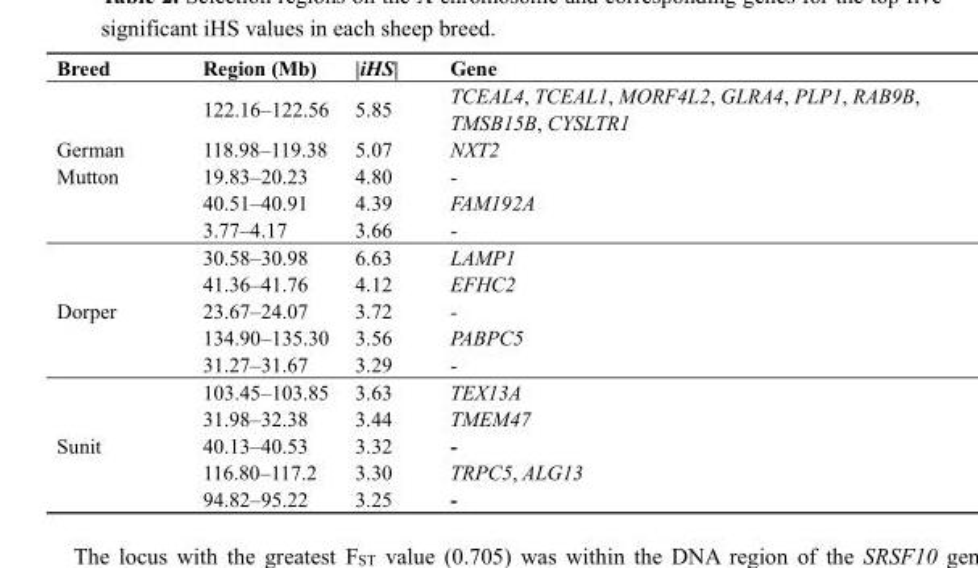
<table><thead><tr><td>Breed</td><td>Region (Mb)</td><td>|iHS|</td><td>Gene</td></tr></thead><tbody><tr><td rowspan="5">German Mutton</td><td>122.16–122.56</td><td>5.85</td><td>TCEAL4, TCEAL1, MORF4L2, GLRA4, PLP1, RAB9B, TMSB15B, CYSLTR1</td></tr><tr><td>118.98–119.38</td><td>5.07</td><td>NXT2</td></tr><tr><td>19.83–20.23</td><td>4.80</td><td>-</td></tr><tr><td>40.51–40.91</td><td>4.39</td><td>FAM192A</td></tr><tr><td>3.77–4.17</td><td>3.66</td><td>-</td></tr><tr><td rowspan="5">Dorper</td><td>30.58–30.98</td><td>6.63</td><td>LAMP1</td></tr><tr><td>41.36–41.76</td><td>4.12</td><td>EFHC2</td></tr><tr><td>23.67–24.07</td><td>3.72</td><td>-</td></tr><tr><td>134.90–135.30</td><td>3.56</td><td>PABPC5</td></tr><tr><td>31.27–31.67</td><td>3.29</td><td>-</td></tr><tr><td rowspan="5">Sunit</td><td>103.45–103.85</td><td>3.63</td><td>TEX13A</td></tr><tr><td>31.98–32.38</td><td>3.44</td><td>TMEM47</td></tr><tr><td>40.13–40.53</td><td>3.32</td><td>-</td></tr><tr><td>116.80–117.2</td><td>3.30</td><td>TRPC5, ALG13</td></tr><tr><td>94.82–95.22</td><td>3.25</td><td>-</td></tr></tbody></table>